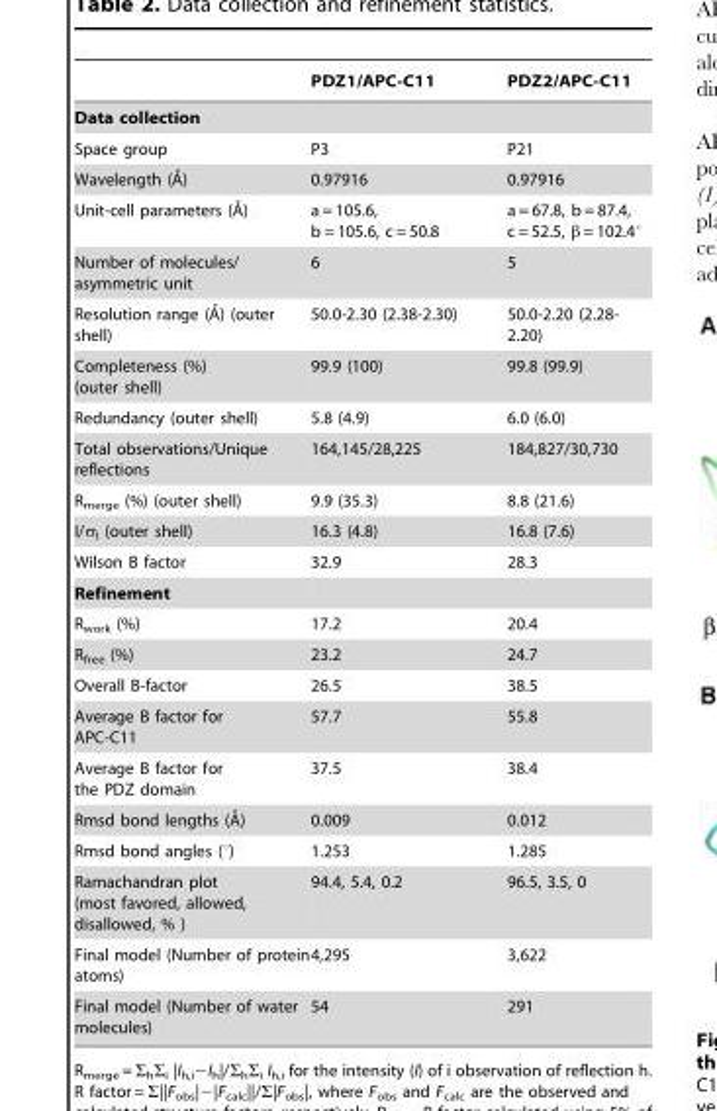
<table><thead><tr><td></td><td>PDZ1/APC-C11</td><td>PDZ2/APC-C11</td></tr></thead><tbody><tr><td colspan="3">Data collection</td></tr><tr><td>Space group</td><td>P3</td><td>P21</td></tr><tr><td>Wavelength (A˚)</td><td>0.97916</td><td>0.97916</td></tr><tr><td>Unit-cell parameters (A˚)</td><td>a = 105.6, b = 105.6, c = 50.8</td><td>a = 67.8, b = 87.4, c = 52.5, β = 102.4°</td></tr><tr><td>Number of molecules/ asymmetric unit</td><td>6</td><td>5</td></tr><tr><td>Resolution range (A˚) (outer shell)</td><td>50.0-2.30 (2.38-2.30)</td><td>50.0-2.20 (2.28- 2.20)</td></tr><tr><td>Completeness (%) (outer shell)</td><td>99.9 (100)</td><td>99.8 (99.9)</td></tr><tr><td>Redundancy (outer shell)</td><td>5.8 (4.9)</td><td>6.0 (6.0)</td></tr><tr><td>Total observations/Unique reflections</td><td>164,145/28,225</td><td>184,827/30,730</td></tr><tr><td>R<sub>merge</sub> (%) (outer shell)</td><td>9.9 (35.3)</td><td>8.8 (21.6)</td></tr><tr><td>I/σ<sub>I</sub> (outer shell)</td><td>16.3 (4.8)</td><td>16.8 (7.6)</td></tr><tr><td>Wilson B factor</td><td>32.9</td><td>28.3</td></tr><tr><td colspan="3">Refinement</td></tr><tr><td>R<sub>work</sub> (%)</td><td>17.2</td><td>20.4</td></tr><tr><td>R<sub>free</sub> (%)</td><td>23.2</td><td>24.7</td></tr><tr><td>Overall B-factor</td><td>26.5</td><td>38.5</td></tr><tr><td>Average B factor for APC-C11</td><td>57.7</td><td>55.8</td></tr><tr><td>Average B factor for the PDZ domain</td><td>37.5</td><td>38.4</td></tr><tr><td>Rmsd bond lengths (A˚)</td><td>0.009</td><td>0.012</td></tr><tr><td>Rmsd bond angles (°)</td><td>1.253</td><td>1.285</td></tr><tr><td>Ramachandran plot (most favored, allowed, disallowed, % )</td><td>94.4, 5.4, 0.2</td><td>96.5, 3.5, 0</td></tr><tr><td>Final model (Number of protein atoms)</td><td>4,295</td><td>3,622</td></tr><tr><td>Final model (Number of water molecules)</td><td>54</td><td>291</td></tr></tbody></table>